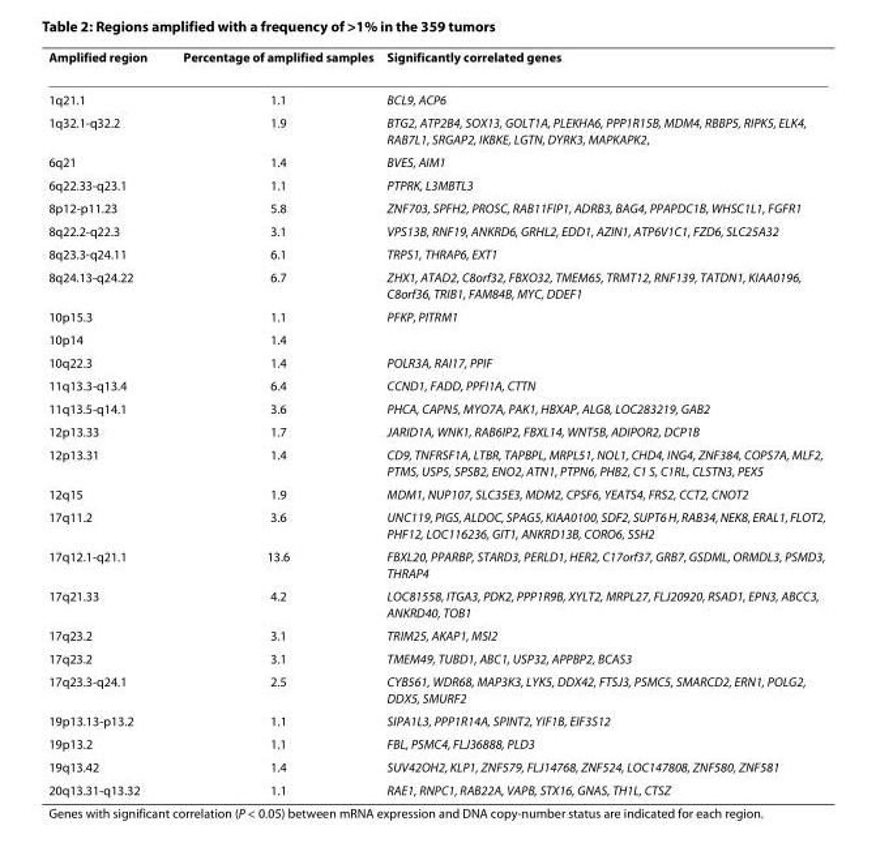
<table><thead><tr><td>Amplified region</td><td>Percentage of amplified samples</td><td>Significantly correlated genes</td></tr></thead><tbody><tr><td>1q21.1</td><td>1.1</td><td>BCL9, ACP6</td></tr><tr><td>1q32.1-q32.2</td><td>1.9</td><td>BTG2, ATP2B4, SOX13, GOLT1A, PLEKHA6, PPP1R15B, MDM4, RBBP5, RIPK5, ELK4, RAB7L1, SRGAP2, IKBKE, LGTN, DYRK3, MAPKAPK2,</td></tr><tr><td>6q21</td><td>1.4</td><td>BVES, AIM1</td></tr><tr><td>6q22.33-q23.1</td><td>1.1</td><td>PTPRK, L3MBTL3</td></tr><tr><td>8p12-p11.23</td><td>5.8</td><td>ZNF703, SPFH2, PROSC, RAB11FIP1, ADRB3, BAG4, PPAPDC1B, WHSC1L1, FGFR1</td></tr><tr><td>8q22.2-q22.3</td><td>3.1</td><td>VPS13B, RNF19, ANKRD6, GRHL2, EDD1, AZIN1, ATP6V1C1, FZD6, SLC25A32</td></tr><tr><td>8q23.3-q24.11</td><td>6.1</td><td>TRPS1, THRAP6, EXT1</td></tr><tr><td>8q24.13-q24.22</td><td>6.7</td><td>ZHX1, ATAD2, C8orf32, FBXO32, TMEM65, TRMT12, RNF139, TATDN1, KIAA0196, C8orf36, TRIB1, FAM84B, MYC, DDEF1</td></tr><tr><td>10p15.3</td><td>1.1</td><td>PFKP, PITRM1</td></tr><tr><td>10p14</td><td>1.4</td><td></td></tr><tr><td>10q22.3</td><td>1.4</td><td>POLR3A, RAI17, PPIF</td></tr><tr><td>11q13.3-q13.4</td><td>6.4</td><td>CCND1, FADD, PPFI1A, CTTN</td></tr><tr><td>11q13.5-q14.1</td><td>3.6</td><td>PHCA, CAPN5, MYO7A, PAK1, HBXAP, ALG8, LOC283219, GAB2</td></tr><tr><td>12p13.33</td><td>1.7</td><td>JARID1A, WNK1, RAB6IP2, FBXL14, WNT5B, ADIPOR2, DCP1B</td></tr><tr><td>12p13.31</td><td>1.4</td><td>CD9, TNFRSF1A, LTBR, TAPBPL, MRPL51, NOL1, CHD4, ING4, ZNF384, COPS7A, MLF2, PTMS, USP5, SPSB2, ENO2, ATN1, PTPN6, PHB2, C1 S, C1RL, CLSTN3, PEX5</td></tr><tr><td>12q15</td><td>1.9</td><td>MDM1, NUP107, SLC35E3, MDM2, CPSF6, YEATS4, FRS2, CCT2, CNOT2</td></tr><tr><td>17q11.2</td><td>3.6</td><td>UNC119, PIGS, ALDOC, SPAG5, KIAA0100, SDF2, SUPT6 H, RAB34, NEK8, ERAL1, FLOT2, PHF12, LOC116236, GIT1, ANKRD13B, CORO6, SSH2</td></tr><tr><td>17q12.1-q21.1</td><td>13.6</td><td>FBXL20, PPARBP, STARD3, PERLD1, HER2, C17orf37, GRB7, GSDML, ORMDL3, PSMD3, THRAP4</td></tr><tr><td>17q21.33</td><td>4.2</td><td>LOC81558, ITGA3, PDK2, PPP1R9B, XYLT2, MRPL27, FLJ20920, RSAD1, EPN3, ABCC3, ANKRD40, TOB1</td></tr><tr><td>17q23.2</td><td>3.1</td><td>TRIM25, AKAP1, MSI2</td></tr><tr><td>17q23.2</td><td>3.1</td><td>TMEM49, TUBD1, ABC1, USP32, APPBP2, BCAS3</td></tr><tr><td>17q23.3-q24.1</td><td>2.5</td><td>CYB561, WDR68, MAP3K3, LYK5, DDX42, FTSJ3, PSMC5, SMARCD2, ERN1, POLG2, DDX5, SMURF2</td></tr><tr><td>19p13.13-p13.2</td><td>1.1</td><td>SIPA1L3, PPP1R14A, SPINT2, YIF1B, EIF3S12</td></tr><tr><td>19p13.2</td><td>1.1</td><td>FBL, PSMC4, FLJ36888, PLD3</td></tr><tr><td>19q13.42</td><td>1.4</td><td>SUV42OH2, KLP1, ZNF579, FLJ14768, ZNF524, LOC147808, ZNF580, ZNF581</td></tr><tr><td>20q13.31-q13.32</td><td>1.1</td><td>RAE1, RNPC1, RAB22A, VAPB, STX16, GNAS, TH1L, CTSZ</td></tr></tbody></table>